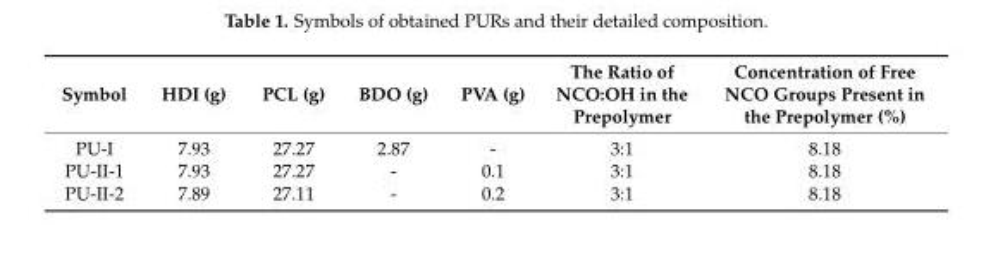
<table><thead><tr><td>Symbol</td><td>HDI (g)</td><td>PCL (g)</td><td>BDO (g)</td><td>PVA (g)</td><td>The Ratio of NCO:OH in the Prepolymer</td><td>Concentration of Free NCO Groups Present in the Prepolymer (%)</td></tr></thead><tbody><tr><td>PU-I</td><td>7.93</td><td>27.27</td><td>2.87</td><td>-</td><td>3:1</td><td>8.18</td></tr><tr><td>PU-II-1</td><td>7.93</td><td>27.27</td><td>-</td><td>0.1</td><td>3:1</td><td>8.18</td></tr><tr><td>PU-II-2</td><td>7.89</td><td>27.11</td><td>-</td><td>0.2</td><td>3:1</td><td>8.18</td></tr></tbody></table>